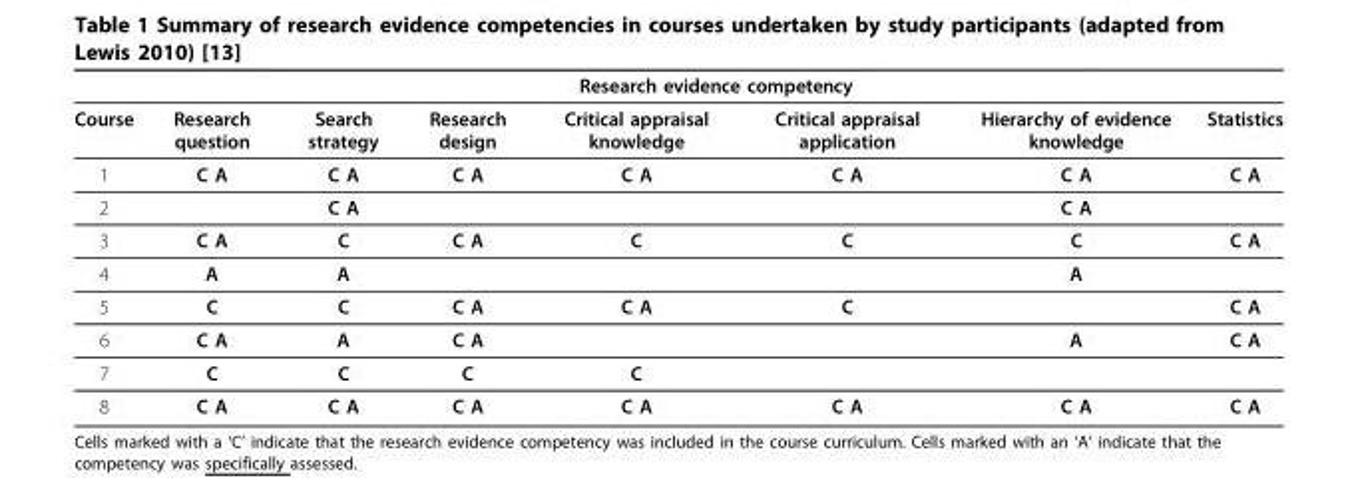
<table><thead><tr><td rowspan="2">Course</td><td colspan="7">Research evidence competency</td></tr><tr><td>Research question</td><td>Search strategy</td><td>Research design</td><td>Critical appraisal knowledge</td><td>Critical appraisal application</td><td>Hierarchy of evidence knowledge</td><td>Statistics</td></tr></thead><tbody><tr><td>1</td><td>C A</td><td>C A</td><td>C A</td><td>C A</td><td>C A</td><td>C A</td><td>C A</td></tr><tr><td>2</td><td></td><td>C A</td><td></td><td></td><td></td><td>C A</td><td></td></tr><tr><td>3</td><td>C A</td><td>C</td><td>C A</td><td>C</td><td>C</td><td>C</td><td>C A</td></tr><tr><td>4</td><td>A</td><td>A</td><td></td><td></td><td></td><td>A</td><td></td></tr><tr><td>5</td><td>C</td><td>C</td><td>C A</td><td>C A</td><td>C</td><td></td><td>C A</td></tr><tr><td>6</td><td>C A</td><td>A</td><td>C A</td><td></td><td></td><td>A</td><td>C A</td></tr><tr><td>7</td><td>C</td><td>C</td><td>C</td><td>C</td><td></td><td></td><td></td></tr><tr><td>8</td><td>C A</td><td>C A</td><td>C A</td><td>C A</td><td>C A</td><td>C A</td><td>C A</td></tr></tbody></table>